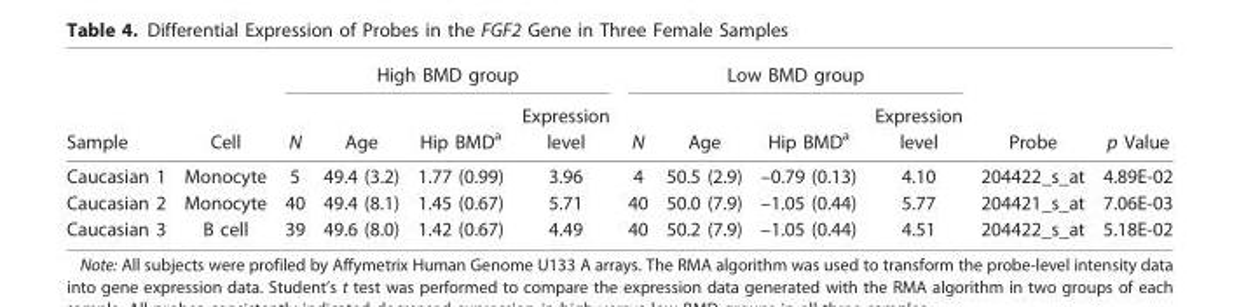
<table><thead><tr><td rowspan="2">Sample</td><td rowspan="2">Cell</td><td colspan="4">High BMD group</td><td colspan="4">Low BMD group</td><td rowspan="2">Probe</td><td rowspan="2">p Value</td></tr><tr><td>N</td><td>Age</td><td>Hip BMD<sup>a</sup></td><td>Expression level</td><td>N</td><td>Age</td><td>Hip BMD<sup>a</sup></td><td>Expression level</td></tr></thead><tbody><tr><td>Caucasian 1</td><td>Monocyte</td><td>5</td><td>49.4 (3.2)</td><td>1.77 (0.99)</td><td>3.96</td><td>4</td><td>50.5 (2.9)</td><td>–0.79 (0.13)</td><td>4.10</td><td>204422_s_at</td><td>4.89E-02</td></tr><tr><td>Caucasian 2</td><td>Monocyte</td><td>40</td><td>49.4 (8.1)</td><td>1.45 (0.67)</td><td>5.71</td><td>40</td><td>50.0 (7.9)</td><td>–1.05 (0.44)</td><td>5.77</td><td>204421_s_at</td><td>7.06E-03</td></tr><tr><td>Caucasian 3</td><td>B cell</td><td>39</td><td>49.6 (8.0)</td><td>1.42 (0.67)</td><td>4.49</td><td>40</td><td>50.2 (7.9)</td><td>–1.05 (0.44)</td><td>4.51</td><td>204422_s_at</td><td>5.18E-02</td></tr></tbody></table>